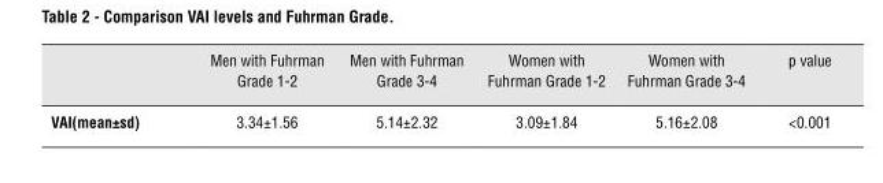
<table><thead><tr><td></td><td>Men with Fuhrman Grade 1-2</td><td>Men with Fuhrman Grade 3-4</td><td>Women with Fuhrman Grade 1-2</td><td>Women with Fuhrman Grade 3-4</td><td>p value</td></tr></thead><tbody><tr><td>VAI(mean±sd)</td><td>3.34±1.56</td><td>5.14±2.32</td><td>3.09±1.84</td><td>5.16±2.08</td><td>&lt;0.001</td></tr></tbody></table>